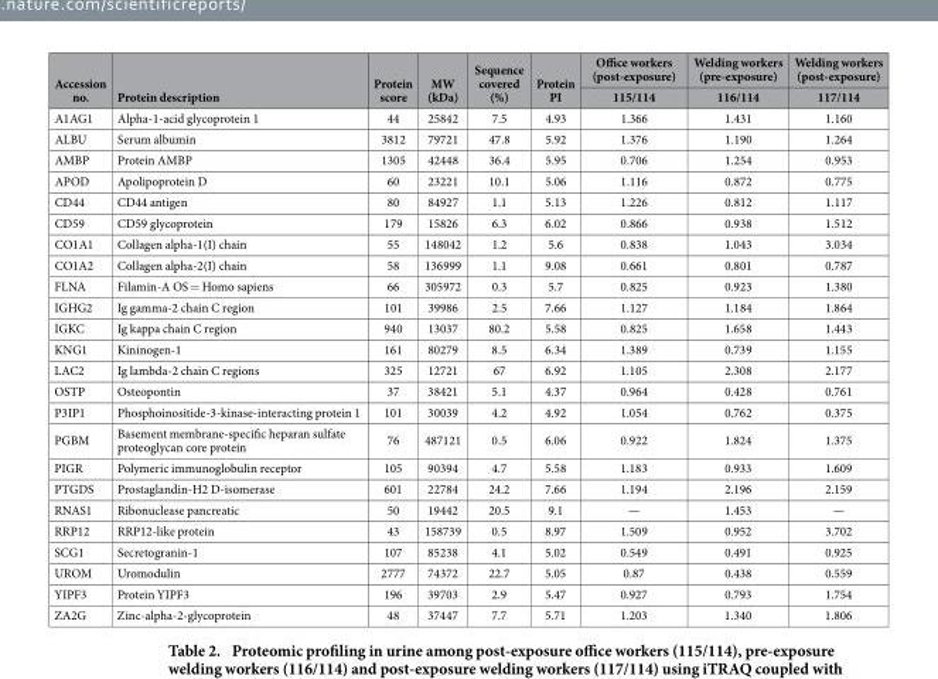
<table><thead><tr><td rowspan="2">Accession no.</td><td rowspan="2">Protein description</td><td rowspan="2">Protein score</td><td rowspan="2">MW (kDa)</td><td rowspan="2">Sequence covered (%)</td><td rowspan="2">Protein PI</td><td rowspan="2">Office workers (post-exposure) 115/114</td><td rowspan="2">Welding workers (pre-exposure) 116/114</td><td rowspan="2">Welding workers (post-exposure) 117/114</td></tr><tr></tr></thead><tbody><tr><td>A1AG1</td><td>Alpha-1-acid glycoprotein 1</td><td>44</td><td>25842</td><td>7.5</td><td>4.93</td><td>1.366</td><td>1.431</td><td>1.160</td></tr><tr><td>ALBU</td><td>Serum albumin</td><td>3812</td><td>79721</td><td>47.8</td><td>5.92</td><td>1.376</td><td>1.190</td><td>1.264</td></tr><tr><td>AMBP</td><td>Protein AMBP</td><td>1305</td><td>42448</td><td>36.4</td><td>5.95</td><td>0.706</td><td>1.254</td><td>0.953</td></tr><tr><td>APOD</td><td>Apolipoprotein D</td><td>60</td><td>23221</td><td>10.1</td><td>5.06</td><td>1.116</td><td>0.872</td><td>0.775</td></tr><tr><td>CD44</td><td>CD44 antigen</td><td>80</td><td>84927</td><td>1.1</td><td>5.13</td><td>1.226</td><td>0.812</td><td>1.117</td></tr><tr><td>CD59</td><td>CD59 glycoprotein</td><td>179</td><td>15826</td><td>6.3</td><td>6.02</td><td>0.866</td><td>0.938</td><td>1.512</td></tr><tr><td>CO1A1</td><td>Collagen alpha-1(I) chain</td><td>55</td><td>148042</td><td>1.2</td><td>5.6</td><td>0.838</td><td>1.043</td><td>3.034</td></tr><tr><td>CO1A2</td><td>Collagen alpha-2(I) chain</td><td>58</td><td>136999</td><td>1.1</td><td>9.08</td><td>0.661</td><td>0.801</td><td>0.787</td></tr><tr><td>FLNA</td><td>Filamin-A OS = Homo sapiens</td><td>66</td><td>305972</td><td>0.3</td><td>5.7</td><td>0.825</td><td>0.923</td><td>1.380</td></tr><tr><td>IGHG2</td><td>Ig gamma-2 chain C region</td><td>101</td><td>39986</td><td>2.5</td><td>7.66</td><td>1.127</td><td>1.184</td><td>1.864</td></tr><tr><td>IGKC</td><td>Ig kappa chain C region</td><td>940</td><td>13037</td><td>80.2</td><td>5.58</td><td>0.825</td><td>1.658</td><td>1.443</td></tr><tr><td>KNG1</td><td>Kininogen-1</td><td>161</td><td>80279</td><td>8.5</td><td>6.34</td><td>1.389</td><td>0.739</td><td>1.155</td></tr><tr><td>LAC2</td><td>Ig lambda-2 chain C regions</td><td>325</td><td>12721</td><td>67</td><td>6.92</td><td>1.105</td><td>2.308</td><td>2.177</td></tr><tr><td>OSTP</td><td>Osteopontin</td><td>37</td><td>38421</td><td>5.1</td><td>4.37</td><td>0.964</td><td>0.428</td><td>0.761</td></tr><tr><td>P3IP1</td><td>Phosphoinositide-3-kinase-interacting protein 1</td><td>101</td><td>30039</td><td>4.2</td><td>4.92</td><td>1.054</td><td>0.762</td><td>0.375</td></tr><tr><td>PGBM</td><td>Basement membrane-specific heparan sulfate proteoglycan core protein</td><td>76</td><td>487121</td><td>0.5</td><td>6.06</td><td>0.922</td><td>1.824</td><td>1.375</td></tr><tr><td>PIGR</td><td>Polymeric immunoglobulin receptor</td><td>105</td><td>90394</td><td>4.7</td><td>5.58</td><td>1.183</td><td>0.933</td><td>1.609</td></tr><tr><td>PTGDS</td><td>Prostaglandin-H2 D-isomerase</td><td>601</td><td>22784</td><td>24.2</td><td>7.66</td><td>1.194</td><td>2.196</td><td>2.159</td></tr><tr><td>RNAS1</td><td>Ribonuclease pancreatic</td><td>50</td><td>19442</td><td>20.5</td><td>9.1</td><td>—</td><td>1.453</td><td>—</td></tr><tr><td>RRP12</td><td>RRP12-like protein</td><td>43</td><td>158739</td><td>0.5</td><td>8.97</td><td>1.509</td><td>0.952</td><td>3.702</td></tr><tr><td>SCG1</td><td>Secretogranin-1</td><td>107</td><td>85238</td><td>4.1</td><td>5.02</td><td>0.549</td><td>0.491</td><td>0.925</td></tr><tr><td>UROM</td><td>Uromodulin</td><td>2777</td><td>74372</td><td>22.7</td><td>5.05</td><td>0.87</td><td>0.438</td><td>0.559</td></tr><tr><td>YIPF3</td><td>Protein YIPF3</td><td>196</td><td>39703</td><td>2.9</td><td>5.47</td><td>0.927</td><td>0.793</td><td>1.754</td></tr><tr><td>ZA2G</td><td>Zinc-alpha-2-glycoprotein</td><td>48</td><td>37447</td><td>7.7</td><td>5.71</td><td>1.203</td><td>1.340</td><td>1.806</td></tr></tbody></table>